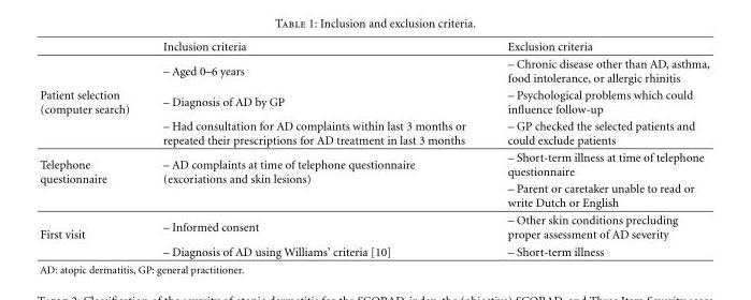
<table><thead><tr><td></td><td>Inclusion criteria</td><td>Exclusion criteria</td></tr></thead><tbody><tr><td></td><td>– Aged 0–6 years</td><td>– Chronic disease other than AD, asthma, food intolerance, or allergic rhinitis</td></tr><tr><td rowspan="2">Patient selection (computer search)</td><td>– Diagnosis of AD by GP</td><td>– Psychological problems which could influence follow-up</td></tr><tr><td>– Had consultation for AD complaints within last 3 months or repeated their prescriptions for AD treatment in last 3 months</td><td>– GP checked the selected patients and could exclude patients</td></tr><tr><td rowspan="2">Telephone questionnaire</td><td rowspan="2">– AD complaints at time of telephone questionnaire (excoriations and skin lesions)</td><td>– Short-term illness at time of telephone questionnaire</td></tr><tr><td>– Parent or caretaker unable to read or write Dutch or English</td></tr><tr><td rowspan="2">First visit</td><td>– Informed consent</td><td>– Other skin conditions precluding proper assessment of AD severity</td></tr><tr><td>– Diagnosis of AD using Williams’ criteria [10]</td><td>– Short-term illness</td></tr></tbody></table>